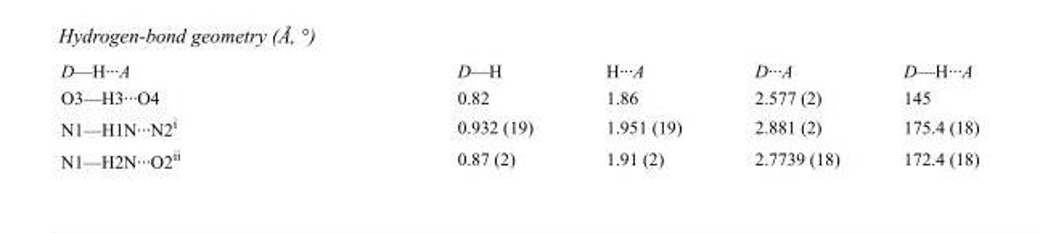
<table><tbody><tr><td>D—H···A</td><td>D—H</td><td>H···A</td><td>D···A</td><td>D—H···A</td></tr><tr><td>O3—H3···O4</td><td>0.82</td><td>1.86</td><td>2.577 (2)</td><td>145</td></tr><tr><td>N1—H1N···N2<sup>i</sup></td><td>0.932 (19)</td><td>1.951 (19)</td><td>2.881 (2)</td><td>175.4 (18)</td></tr><tr><td>N1—H2N···O2<sup>ii</sup></td><td>0.87 (2)</td><td>1.91 (2)</td><td>2.7739 (18)</td><td>172.4 (18)</td></tr></tbody></table>